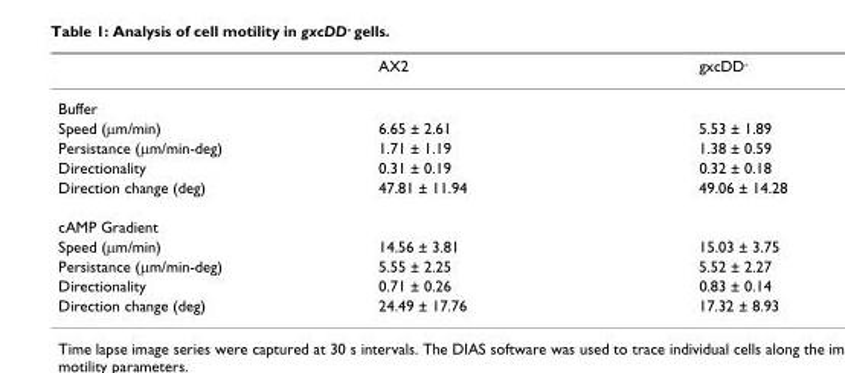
<table><thead><tr><td></td><td>AX2</td><td>gxcDD<sup>-</sup></td></tr></thead><tbody><tr><td colspan="3">Buffer</td></tr><tr><td>Speed (μm/min)</td><td>6.65 ± 2.61</td><td>5.53 ± 1.89</td></tr><tr><td>Persistance (μm/min-deg)</td><td>1.71 ± 1.19</td><td>1.38 ± 0.59</td></tr><tr><td>Directionality</td><td>0.31 ± 0.19</td><td>0.32 ± 0.18</td></tr><tr><td>Direction change (deg)</td><td>47.81 ± 11.94</td><td>49.06 ± 14.28</td></tr><tr><td colspan="3">cAMP Gradient</td></tr><tr><td>Speed (μm/min)</td><td>14.56 ± 3.81</td><td>15.03 ± 3.75</td></tr><tr><td>Persistance (μm/min-deg)</td><td>5.55 ± 2.25</td><td>5.52 ± 2.27</td></tr><tr><td>Directionality</td><td>0.71 ± 0.26</td><td>0.83 ± 0.14</td></tr><tr><td>Direction change (deg)</td><td>24.49 ± 17.76</td><td>17.32 ± 8.93</td></tr></tbody></table>